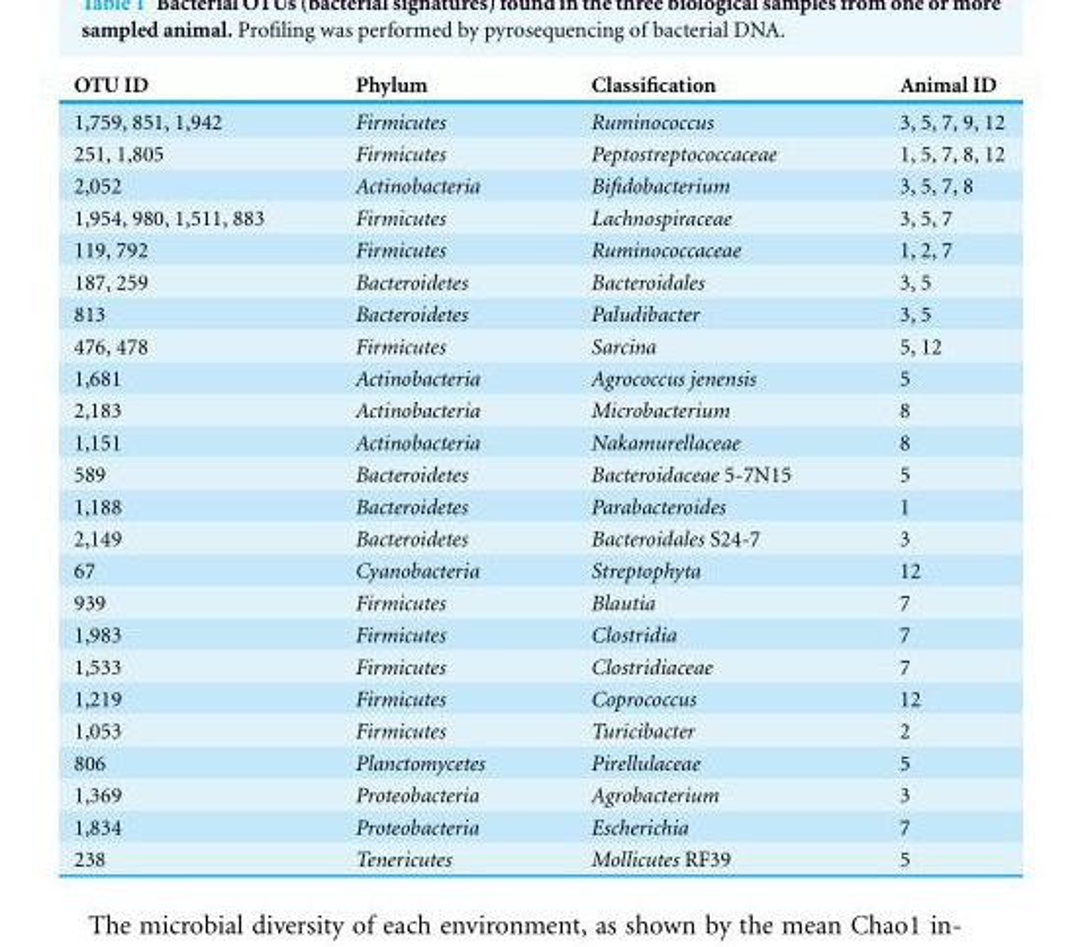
<table><thead><tr><td>OTU ID</td><td>Phylum</td><td>Classification</td><td>Animal ID</td></tr></thead><tbody><tr><td>1,759, 851, 1,942</td><td>Firmicutes</td><td>Ruminococcus</td><td>3, 5, 7, 9, 12</td></tr><tr><td>251, 1,805</td><td>Firmicutes</td><td>Peptostreptococcaceae</td><td>1, 5, 7, 8, 12</td></tr><tr><td>2,052</td><td>Actinobacteria</td><td>Bifidobacterium</td><td>3, 5, 7, 8</td></tr><tr><td>1,954, 980, 1,511, 883</td><td>Firmicutes</td><td>Lachnospiraceae</td><td>3, 5, 7</td></tr><tr><td>119, 792</td><td>Firmicutes</td><td>Ruminococcaceae</td><td>1, 2, 7</td></tr><tr><td>187, 259</td><td>Bacteroidetes</td><td>Bacteroidales</td><td>3, 5</td></tr><tr><td>813</td><td>Bacteroidetes</td><td>Paludibacter</td><td>3, 5</td></tr><tr><td>476, 478</td><td>Firmicutes</td><td>Sarcina</td><td>5, 12</td></tr><tr><td>1,681</td><td>Actinobacteria</td><td>Agrococcus jenensis</td><td>5</td></tr><tr><td>2,183</td><td>Actinobacteria</td><td>Microbacterium</td><td>8</td></tr><tr><td>1,151</td><td>Actinobacteria</td><td>Nakamurellaceae</td><td>8</td></tr><tr><td>589</td><td>Bacteroidetes</td><td>Bacteroidaceae 5-7N15</td><td>5</td></tr><tr><td>1,188</td><td>Bacteroidetes</td><td>Parabacteroides</td><td>1</td></tr><tr><td>2,149</td><td>Bacteroidetes</td><td>Bacteroidales S24-7</td><td>3</td></tr><tr><td>67</td><td>Cyanobacteria</td><td>Streptophyta</td><td>12</td></tr><tr><td>939</td><td>Firmicutes</td><td>Blautia</td><td>7</td></tr><tr><td>1,983</td><td>Firmicutes</td><td>Clostridia</td><td>7</td></tr><tr><td>1,533</td><td>Firmicutes</td><td>Clostridiaceae</td><td>7</td></tr><tr><td>1,219</td><td>Firmicutes</td><td>Coprococcus</td><td>12</td></tr><tr><td>1,053</td><td>Firmicutes</td><td>Turicibacter</td><td>2</td></tr><tr><td>806</td><td>Planctomycetes</td><td>Pirellulaceae</td><td>5</td></tr><tr><td>1,369</td><td>Proteobacteria</td><td>Agrobacterium</td><td>3</td></tr><tr><td>1,834</td><td>Proteobacteria</td><td>Escherichia</td><td>7</td></tr><tr><td>238</td><td>Tenericutes</td><td>Mollicutes RF39</td><td>5</td></tr></tbody></table>